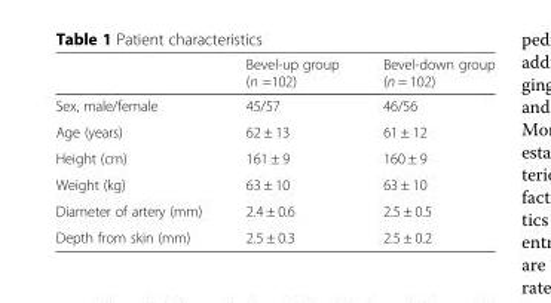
<table><thead><tr><td></td><td>Bevel-up group (n =102)</td><td>Bevel-down group (n = 102)</td></tr></thead><tbody><tr><td>Sex, male/female</td><td>45/57</td><td>46/56</td></tr><tr><td>Age (years)</td><td>62 ± 13</td><td>61 ± 12</td></tr><tr><td>Height (cm)</td><td>161 ± 9</td><td>160 ± 9</td></tr><tr><td>Weight (kg)</td><td>63 ± 10</td><td>63 ± 10</td></tr><tr><td>Diameter of artery (mm)</td><td>2.4 ± 0.6</td><td>2.5 ± 0.5</td></tr><tr><td>Depth from skin (mm)</td><td>2.5 ± 0.3</td><td>2.5 ± 0.2</td></tr></tbody></table>